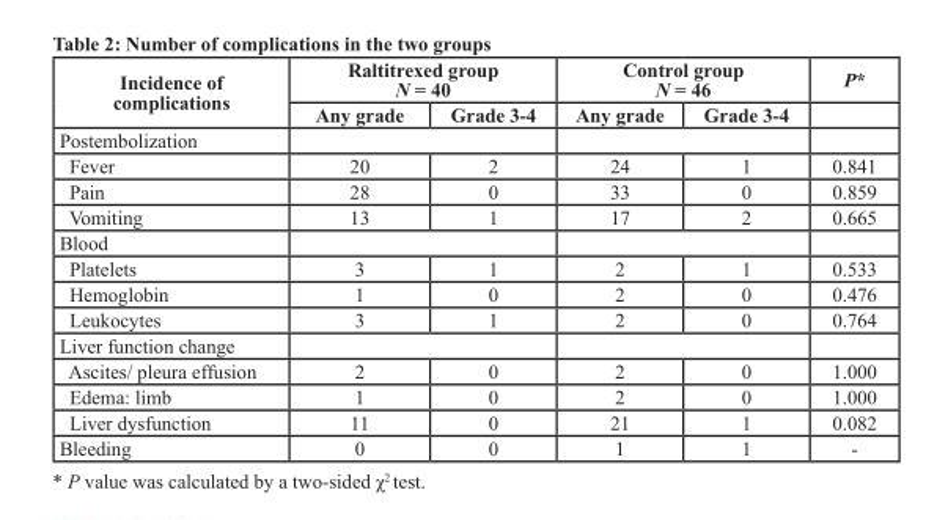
<table><thead><tr><td rowspan="2">Incidence of complications</td><td colspan="2">Raltitrexed group N = 40</td><td colspan="2">Control group N = 46</td><td rowspan="2">P*</td></tr><tr><td>Any grade</td><td>Grade 3-4</td><td>Any grade</td><td>Grade 3-4</td></tr></thead><tbody><tr><td colspan="6">Postembolization</td></tr><tr><td>Fever</td><td>20</td><td>2</td><td>24</td><td>1</td><td>0.841</td></tr><tr><td>Pain</td><td>28</td><td>0</td><td>33</td><td>0</td><td>0.859</td></tr><tr><td>Vomiting</td><td>13</td><td>1</td><td>17</td><td>2</td><td>0.665</td></tr><tr><td colspan="6">Blood</td></tr><tr><td>Platelets</td><td>3</td><td>1</td><td>2</td><td>1</td><td>0.533</td></tr><tr><td>Hemoglobin</td><td>1</td><td>0</td><td>2</td><td>0</td><td>0.476</td></tr><tr><td>Leukocytes</td><td>3</td><td>1</td><td>2</td><td>0</td><td>0.764</td></tr><tr><td colspan="6">Liver function change</td></tr><tr><td>Ascites/ pleura effusion</td><td>2</td><td>0</td><td>2</td><td>0</td><td>1.000</td></tr><tr><td>Edema: limb</td><td>1</td><td>0</td><td>2</td><td>0</td><td>1.000</td></tr><tr><td>Liver dysfunction</td><td>11</td><td>0</td><td>21</td><td>1</td><td>0.082</td></tr><tr><td>Bleeding</td><td>0</td><td>0</td><td>1</td><td>1</td><td>-</td></tr></tbody></table>